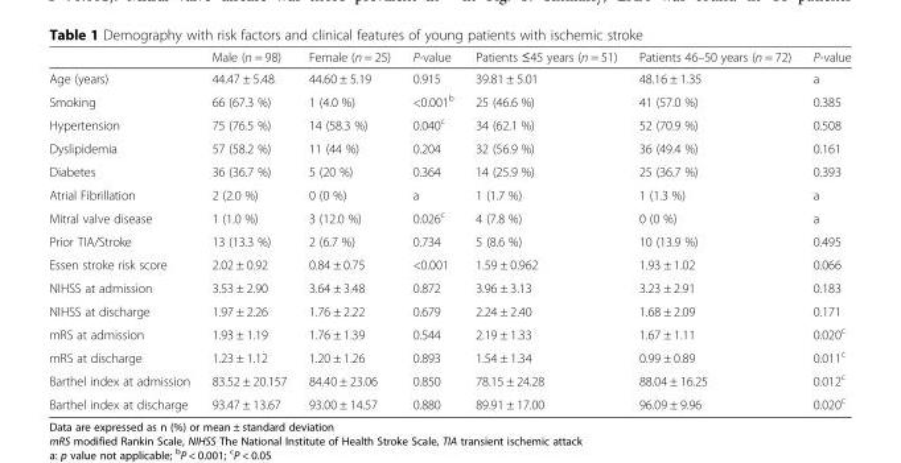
<table><thead><tr><td></td><td>Male (n = 98)</td><td>Female (n = 25)</td><td>P-value</td><td>Patients ≤45 years (n = 51)</td><td>Patients 46–50 years (n = 72)</td><td>P-value</td></tr></thead><tbody><tr><td>Age (years)</td><td>44.47 ± 5.48</td><td>44.60 ± 5.19</td><td>0.915</td><td>39.81 ± 5.01</td><td>48.16 ± 1.35</td><td>a</td></tr><tr><td>Smoking</td><td>66 (67.3 %)</td><td>1 (4.0 %)</td><td>&lt;0.001<sup>b</sup></td><td>25 (46.6 %)</td><td>41 (57.0 %)</td><td>0.385</td></tr><tr><td>Hypertension</td><td>75 (76.5 %)</td><td>14 (58.3 %)</td><td>0.040<sup>c</sup></td><td>34 (62.1 %)</td><td>52 (70.9 %)</td><td>0.508</td></tr><tr><td>Dyslipidemia</td><td>57 (58.2 %)</td><td>11 (44 %)</td><td>0.204</td><td>32 (56.9 %)</td><td>36 (49.4 %)</td><td>0.161</td></tr><tr><td>Diabetes</td><td>36 (36.7 %)</td><td>5 (20 %)</td><td>0.364</td><td>14 (25.9 %)</td><td>25 (36.7 %)</td><td>0.393</td></tr><tr><td>Atrial Fibrillation</td><td>2 (2.0 %)</td><td>0 (0 %)</td><td>a</td><td>1 (1.7 %)</td><td>1 (1.3 %)</td><td>a</td></tr><tr><td>Mitral valve disease</td><td>1 (1.0 %)</td><td>3 (12.0 %)</td><td>0.026<sup>c</sup></td><td>4 (7.8 %)</td><td>0 (0 %)</td><td>a</td></tr><tr><td>Prior TIA/Stroke</td><td>13 (13.3 %)</td><td>2 (6.7 %)</td><td>0.734</td><td>5 (8.6 %)</td><td>10 (13.9 %)</td><td>0.495</td></tr><tr><td>Essen stroke risk score</td><td>2.02 ± 0.92</td><td>0.84 ± 0.75</td><td>&lt;0.001</td><td>1.59 ± 0.962</td><td>1.93 ± 1.02</td><td>0.066</td></tr><tr><td>NIHSS at admission</td><td>3.53 ± 2.90</td><td>3.64 ± 3.48</td><td>0.872</td><td>3.96 ± 3.13</td><td>3.23 ± 2.91</td><td>0.183</td></tr><tr><td>NIHSS at discharge</td><td>1.97 ± 2.26</td><td>1.76 ± 2.22</td><td>0.679</td><td>2.24 ± 2.40</td><td>1.68 ± 2.09</td><td>0.171</td></tr><tr><td>mRS at admission</td><td>1.93 ± 1.19</td><td>1.76 ± 1.39</td><td>0.544</td><td>2.19 ± 1.33</td><td>1.67 ± 1.11</td><td>0.020<sup>c</sup></td></tr><tr><td>mRS at discharge</td><td>1.23 ± 1.12</td><td>1.20 ± 1.26</td><td>0.893</td><td>1.54 ± 1.34</td><td>0.99 ± 0.89</td><td>0.011<sup>c</sup></td></tr><tr><td>Barthel index at admission</td><td>83.52 ± 20.157</td><td>84.40 ± 23.06</td><td>0.850</td><td>78.15 ± 24.28</td><td>88.04 ± 16.25</td><td>0.012<sup>c</sup></td></tr><tr><td>Barthel index at discharge</td><td>93.47 ± 13.67</td><td>93.00 ± 14.57</td><td>0.880</td><td>89.91 ± 17.00</td><td>96.09 ± 9.96</td><td>0.020<sup>c</sup></td></tr></tbody></table>